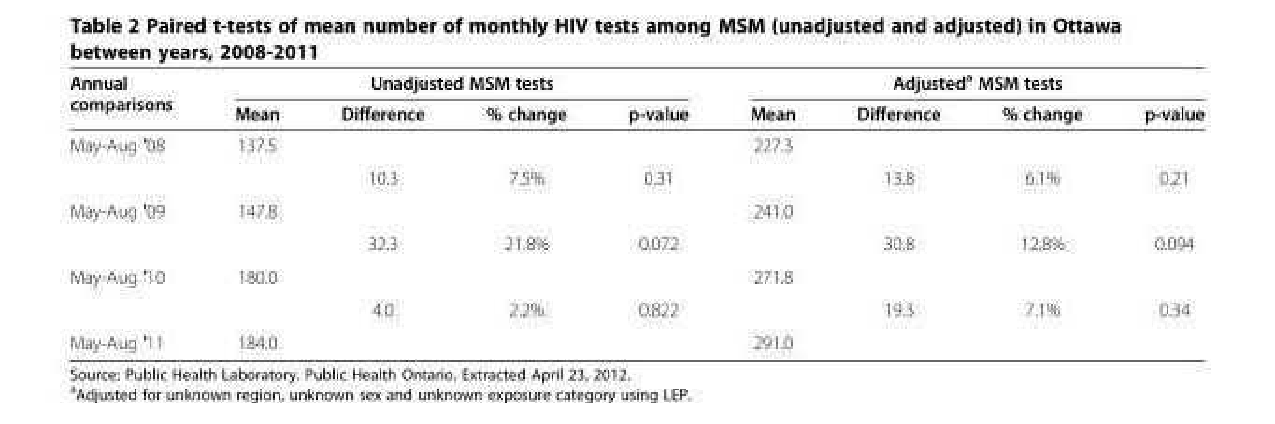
<table><thead><tr><td rowspan="2">Annual comparisons</td><td colspan="4">Unadjusted MSM tests</td><td colspan="4">Adjusted<sup>a</sup> MSM tests</td></tr><tr><td>Mean</td><td>Difference</td><td>% change</td><td>p-value</td><td>Mean</td><td>Difference</td><td>% change</td><td>p-value</td></tr></thead><tbody><tr><td rowspan="2">May-Aug ′08</td><td>137.5</td><td></td><td></td><td></td><td>227.3</td><td></td><td></td><td></td></tr><tr><td></td><td>10.3</td><td>7.5%</td><td>0.31</td><td></td><td>13.8</td><td>6.1%</td><td>0.21</td></tr><tr><td rowspan="2">May-Aug ′09</td><td>147.8</td><td></td><td></td><td></td><td>241.0</td><td></td><td></td><td></td></tr><tr><td></td><td>32.3</td><td>21.8%</td><td>0.072</td><td></td><td>30.8</td><td>12.8%</td><td>0.094</td></tr><tr><td rowspan="2">May-Aug ′10</td><td>180.0</td><td></td><td></td><td></td><td>271.8</td><td></td><td></td><td></td></tr><tr><td></td><td>4.0</td><td>2.2%</td><td>0.822</td><td></td><td>19.3</td><td>7.1%</td><td>0.34</td></tr><tr><td>May-Aug ′11</td><td>184.0</td><td></td><td></td><td></td><td>291.0</td><td></td><td></td><td></td></tr></tbody></table>